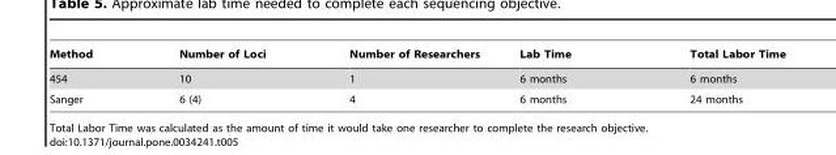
<table><thead><tr><td>Method</td><td>Number of Loci</td><td>Number of Researchers</td><td>Lab Time</td><td>Total Labor Time</td></tr></thead><tbody><tr><td>454</td><td>10</td><td>1</td><td>6 months</td><td>6 months</td></tr><tr><td>Sanger</td><td>6 (4)</td><td>4</td><td>6 months</td><td>24 months</td></tr></tbody></table>